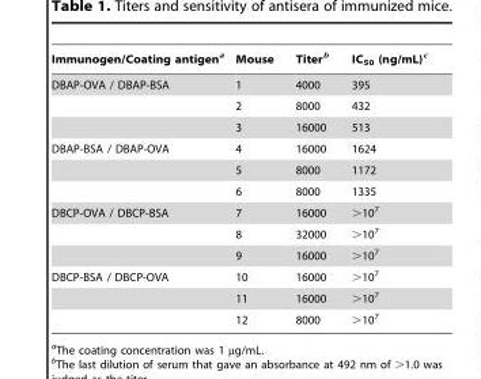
<table><thead><tr><td>Immunogen/Coating antigen<sup>a</sup></td><td>Mouse</td><td>Titer<sup>b</sup></td><td>IC<sub>50</sub> (ng/mL)<sup>c</sup></td></tr></thead><tbody><tr><td rowspan="3">DBAP-OVA / DBAP-BSA</td><td>1</td><td>4000</td><td>395</td></tr><tr><td>2</td><td>8000</td><td>432</td></tr><tr><td>3</td><td>16000</td><td>513</td></tr><tr><td rowspan="3">DBAP-BSA / DBAP-OVA</td><td>4</td><td>16000</td><td>1624</td></tr><tr><td>5</td><td>8000</td><td>1172</td></tr><tr><td>6</td><td>8000</td><td>1335</td></tr><tr><td rowspan="3">DBCP-OVA / DBCP-BSA</td><td>7</td><td>16000</td><td>&gt;10<sup>7</sup></td></tr><tr><td>8</td><td>32000</td><td>&gt;10<sup>7</sup></td></tr><tr><td>9</td><td>16000</td><td>&gt;10<sup>7</sup></td></tr><tr><td rowspan="3">DBCP-BSA / DBCP-OVA</td><td>10</td><td>16000</td><td>&gt;10<sup>7</sup></td></tr><tr><td>11</td><td>16000</td><td>&gt;10<sup>7</sup></td></tr><tr><td>12</td><td>8000</td><td>&gt;10<sup>7</sup></td></tr></tbody></table>